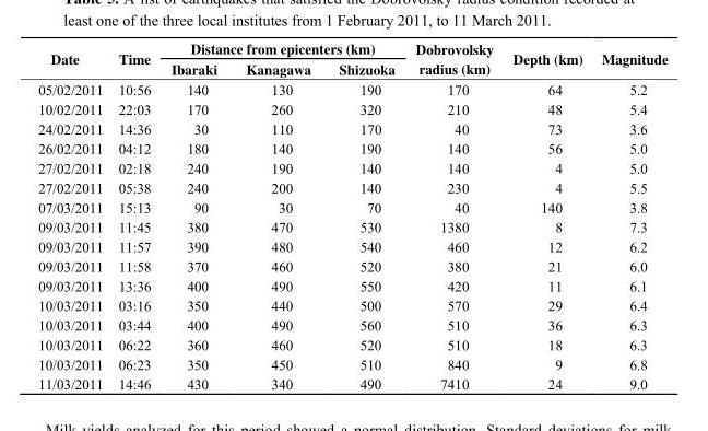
<table><thead><tr><td rowspan="2">Date</td><td rowspan="2">Time</td><td colspan="3">Distance from epicenters (km)</td><td rowspan="2">Dobrovolsky radius (km)</td><td rowspan="2">Depth (km)</td><td rowspan="2">Magnitude</td></tr><tr><td>Ibaraki</td><td>Kanagawa</td><td>Shizuoka</td></tr></thead><tbody><tr><td>05/02/2011</td><td>10:56</td><td>140</td><td>130</td><td>190</td><td>170</td><td>64</td><td>5.2</td></tr><tr><td>10/02/2011</td><td>22:03</td><td>170</td><td>260</td><td>320</td><td>210</td><td>48</td><td>5.4</td></tr><tr><td>24/02/2011</td><td>14:36</td><td>30</td><td>110</td><td>170</td><td>40</td><td>73</td><td>3.6</td></tr><tr><td>26/02/2011</td><td>04:12</td><td>180</td><td>140</td><td>190</td><td>140</td><td>56</td><td>5.0</td></tr><tr><td>27/02/2011</td><td>02:18</td><td>240</td><td>190</td><td>140</td><td>140</td><td>4</td><td>5.0</td></tr><tr><td>27/02/2011</td><td>05:38</td><td>240</td><td>200</td><td>140</td><td>230</td><td>4</td><td>5.5</td></tr><tr><td>07/03/2011</td><td>15:13</td><td>90</td><td>30</td><td>70</td><td>40</td><td>140</td><td>3.8</td></tr><tr><td>09/03/2011</td><td>11:45</td><td>380</td><td>470</td><td>530</td><td>1380</td><td>8</td><td>7.3</td></tr><tr><td>09/03/2011</td><td>11:57</td><td>390</td><td>480</td><td>540</td><td>460</td><td>12</td><td>6.2</td></tr><tr><td>09/03/2011</td><td>11:58</td><td>370</td><td>460</td><td>520</td><td>380</td><td>21</td><td>6.0</td></tr><tr><td>09/03/2011</td><td>13:36</td><td>400</td><td>490</td><td>550</td><td>420</td><td>11</td><td>6.1</td></tr><tr><td>10/03/2011</td><td>03:16</td><td>350</td><td>440</td><td>500</td><td>570</td><td>29</td><td>6.4</td></tr><tr><td>10/03/2011</td><td>03:44</td><td>400</td><td>490</td><td>560</td><td>510</td><td>36</td><td>6.3</td></tr><tr><td>10/03/2011</td><td>06:22</td><td>360</td><td>460</td><td>520</td><td>510</td><td>18</td><td>6.3</td></tr><tr><td>10/03/2011</td><td>06:23</td><td>350</td><td>450</td><td>510</td><td>840</td><td>9</td><td>6.8</td></tr><tr><td>11/03/2011</td><td>14:46</td><td>430</td><td>340</td><td>490</td><td>7410</td><td>24</td><td>9.0</td></tr></tbody></table>